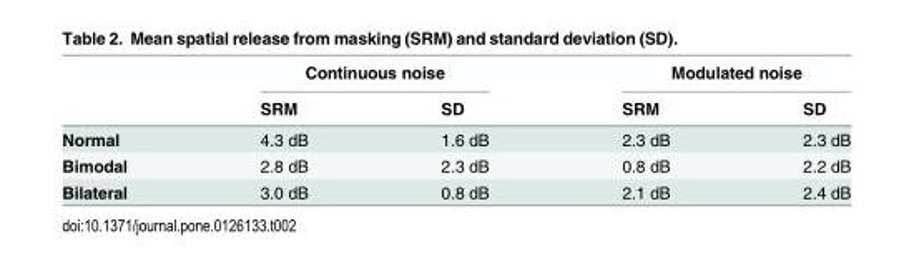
<table><thead><tr><td rowspan="2"></td><td colspan="2">Continuous noise</td><td colspan="2">Modulated noise</td></tr><tr><td>SRM</td><td>SD</td><td>SRM</td><td>SD</td></tr></thead><tbody><tr><td>Normal</td><td>4.3 dB</td><td>1.6 dB</td><td>2.3 dB</td><td>2.3 dB</td></tr><tr><td>Bimodal</td><td>2.8 dB</td><td>2.3 dB</td><td>0.8 dB</td><td>2.2 dB</td></tr><tr><td>Bilateral</td><td>3.0 dB</td><td>0.8 dB</td><td>2.1 dB</td><td>2.4 dB</td></tr></tbody></table>